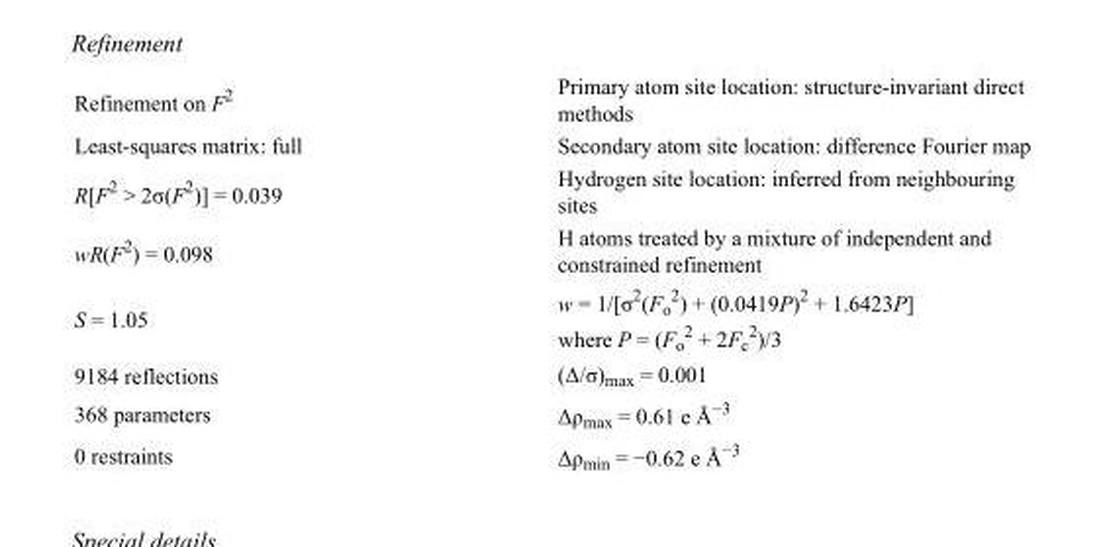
<table><tbody><tr><td>Refinement on F<sup>2</sup></td><td>Primary atom site location: structure-invariant direct methods</td></tr><tr><td>Least-squares matrix: full</td><td>Secondary atom site location: difference Fourier map</td></tr><tr><td>R[F<sup>2</sup> &gt; 2σ(F<sup>2</sup>)] = 0.039</td><td>Hydrogen site location: inferred from neighbouring sites</td></tr><tr><td>wR(F<sup>2</sup>) = 0.098</td><td>H atoms treated by a mixture of independent and constrained refinement</td></tr><tr><td>S = 1.05</td><td>w = 1/[σ<sup>2</sup>(F<sub>o</sub> <sup>2</sup>) + (0.0419P)<sup>2</sup> + 1.6423P] where P = (F<sub>o</sub> <sup>2</sup> + 2F<sub>c</sub> <sup>2</sup>)/3</td></tr><tr><td>9184 reflections</td><td>(Δ/σ)<sub>max</sub> = 0.001</td></tr><tr><td>368 parameters</td><td>Δρ<sub>max</sub> = 0.61 e Å<sup>−3</sup></td></tr><tr><td>0 restraints</td><td>Δρ<sub>min</sub> = −0.62 e Å<sup>−3</sup></td></tr></tbody></table>